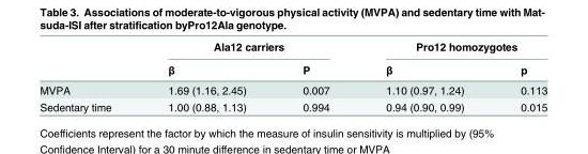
<table><thead><tr><td rowspan="2"></td><td colspan="2">Ala12 carriers</td><td colspan="2">Pro12 homozygotes</td></tr><tr><td>β</td><td>P</td><td>β</td><td>p</td></tr></thead><tbody><tr><td>MVPA</td><td>1.69 (1.16, 2.45)</td><td>0.007</td><td>1.10 (0.97, 1.24)</td><td>0.113</td></tr><tr><td>Sedentary time</td><td>1.00 (0.88, 1.13)</td><td>0.994</td><td>0.94 (0.90, 0.99)</td><td>0.015</td></tr></tbody></table>